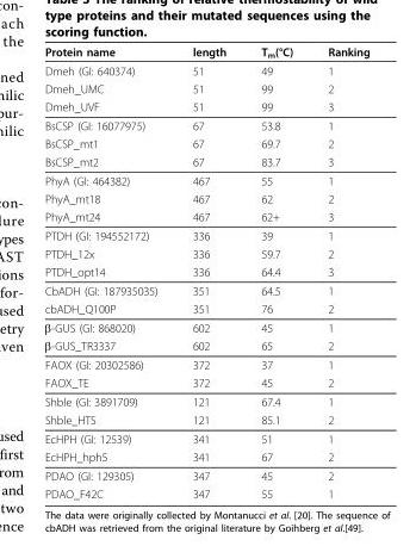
<table><thead><tr><td>Protein name</td><td>length</td><td>T<sub>m</sub>(°C)</td><td>Ranking</td></tr></thead><tbody><tr><td>Dmeh (GI: 640374)</td><td>51</td><td>49</td><td>1</td></tr><tr><td>Dmeh_UMC</td><td>51</td><td>99</td><td>2</td></tr><tr><td>Dmeh_UVF</td><td>51</td><td>99</td><td>3</td></tr><tr><td>BsCSP (GI: 16077975)</td><td>67</td><td>53.8</td><td>1</td></tr><tr><td>BsCSP_mt1</td><td>67</td><td>69.7</td><td>2</td></tr><tr><td>BsCSP_mt2</td><td>67</td><td>83.7</td><td>3</td></tr><tr><td>PhyA (GI: 464382)</td><td>467</td><td>55</td><td>1</td></tr><tr><td>PhyA_mt18</td><td>467</td><td>62</td><td>2</td></tr><tr><td>PhyA_mt24</td><td>467</td><td>62+</td><td>3</td></tr><tr><td>PTDH (GI: 194552172)</td><td>336</td><td>39</td><td>1</td></tr><tr><td>PTDH_12x</td><td>336</td><td>59.7</td><td>2</td></tr><tr><td>PTDH_opt14</td><td>336</td><td>64.4</td><td>3</td></tr><tr><td>CbADH (GI: 187935035)</td><td>351</td><td>64.5</td><td>1</td></tr><tr><td>cbADH_Q100P</td><td>351</td><td>76</td><td>2</td></tr><tr><td>β-GUS (GI: 868020)</td><td>602</td><td>45</td><td>1</td></tr><tr><td>β-GUS_TR3337</td><td>602</td><td>65</td><td>2</td></tr><tr><td>FAOX (GI: 20302586)</td><td>372</td><td>37</td><td>1</td></tr><tr><td>FAOX_TE</td><td>372</td><td>45</td><td>2</td></tr><tr><td>Shble (GI: 3891709)</td><td>121</td><td>67.4</td><td>1</td></tr><tr><td>Shble_HTS</td><td>121</td><td>85.1</td><td>2</td></tr><tr><td>EcHPH (GI: 12539)</td><td>341</td><td>51</td><td>1</td></tr><tr><td>EcHPH_hph5</td><td>341</td><td>67</td><td>2</td></tr><tr><td>PDAO (GI: 129305)</td><td>347</td><td>45</td><td>2</td></tr><tr><td>PDAO_F42C</td><td>347</td><td>55</td><td>1</td></tr></tbody></table>